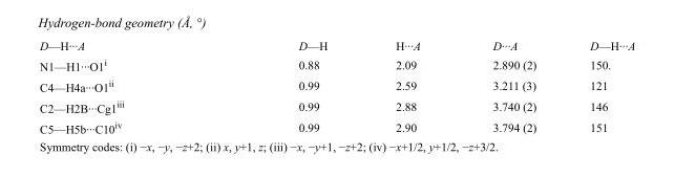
<table><tbody><tr><td>D—H···A</td><td>D—H</td><td>H···A</td><td>D···A</td><td>D—H···A</td></tr><tr><td>N1—H1···O1<sup>i</sup></td><td>0.88</td><td>2.09</td><td>2.890 (2)</td><td>150.</td></tr><tr><td>C4—H4a···O1<sup>ii</sup></td><td>0.99</td><td>2.59</td><td>3.211 (3)</td><td>121</td></tr><tr><td>C2—H2B···Cg1<sup>iii</sup></td><td>0.99</td><td>2.88</td><td>3.740 (2)</td><td>146</td></tr><tr><td>C5—H5b···C10<sup>iv</sup></td><td>0.99</td><td>2.90</td><td>3.794 (2)</td><td>151</td></tr></tbody></table>